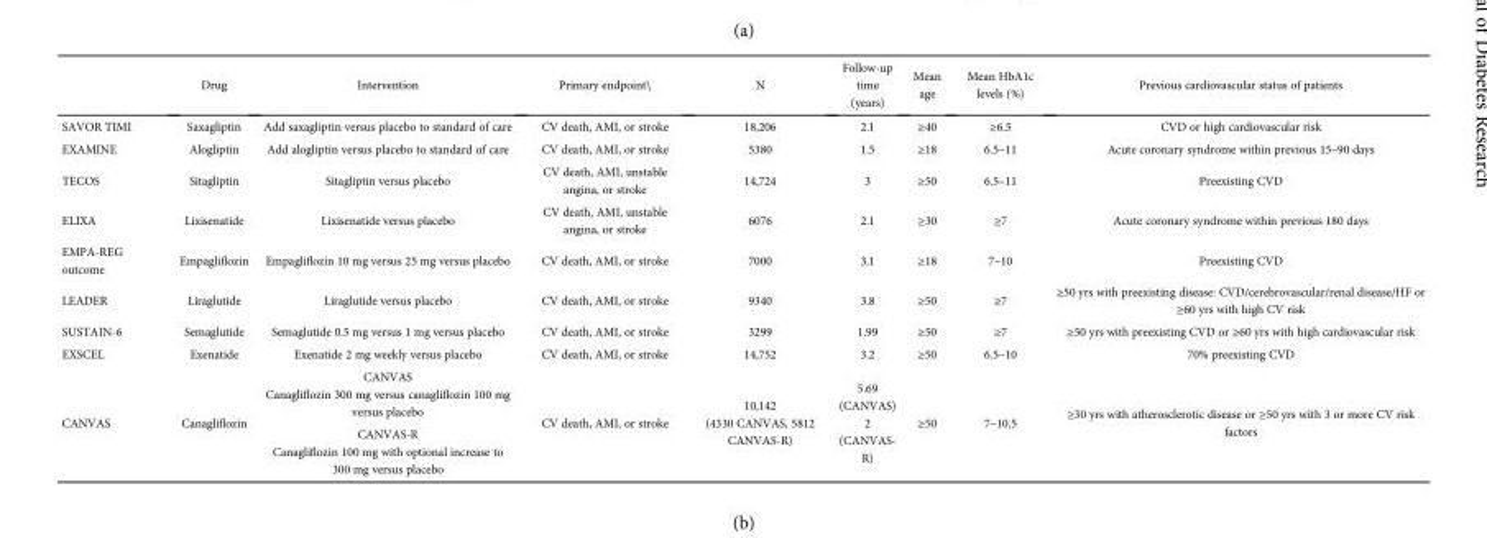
<table><thead><tr><td></td><td>Drug</td><td>Intervention</td><td>Primary endpoint\</td><td>N</td><td>Follow-up time (years)</td><td>Mean age</td><td>Mean HbA1c levels (%)</td><td>Previous cardiovascular status of patients</td></tr></thead><tbody><tr><td>SAVOR TIMI</td><td>Saxagliptin</td><td>Add saxagliptin versus placebo to standard of care</td><td>CV death, AMI, or stroke</td><td>18,206</td><td>2.1</td><td>≥40</td><td>≥6.5</td><td>CVD or high cardiovascular risk</td></tr><tr><td>EXAMINE</td><td>Alogliptin</td><td>Add alogliptin versus placebo to standard of care</td><td>CV death, AMI, or stroke</td><td>5380</td><td>1.5</td><td>≥18</td><td>6.5–11</td><td>Acute coronary syndrome within previous 15–90 days</td></tr><tr><td>TECOS</td><td>Sitagliptin</td><td>Sitagliptin versus placebo</td><td>CV death, AMI, unstable angina, or stroke</td><td>14,724</td><td>3</td><td>≥50</td><td>6.5–11</td><td>Preexisting CVD</td></tr><tr><td>ELIXA</td><td>Lixisenatide</td><td>Lixisenatide versus placebo</td><td>CV death, AMI, unstable angina, or stroke</td><td>6076</td><td>2.1</td><td>≥30</td><td>≥7</td><td>Acute coronary syndrome within previous 180 days</td></tr><tr><td>EMPA-REG outcome</td><td>Empagliflozin</td><td>Empagliflozin 10 mg versus 25 mg versus placebo</td><td>CV death, AMI, or stroke</td><td>7000</td><td>3.1</td><td>≥18</td><td>7–10</td><td>Preexisting CVD</td></tr><tr><td>LEADER</td><td>Liraglutide</td><td>Liraglutide versus placebo</td><td>CV death, AMI, or stroke</td><td>9340</td><td>3.8</td><td>≥50</td><td>≥7</td><td>≥50 yrs with preexisting disease: CVD/cerebrovascular/renal disease/HF or ≥60 yrs with high CV risk</td></tr><tr><td>SUSTAIN-6</td><td>Semaglutide</td><td>Semaglutide 0.5 mg versus 1 mg versus placebo</td><td>CV death, AMI, or stroke</td><td>3299</td><td>1.99</td><td>≥50</td><td>≥7</td><td>≥50 yrs with preexisting CVD or ≥60 yrs with high cardiovascular risk</td></tr><tr><td>EXSCEL</td><td>Exenatide</td><td>Exenatide 2 mg weekly versus placebo</td><td>CV death, AMI, or stroke</td><td>14,752</td><td>3.2</td><td>≥50</td><td>6.5–10</td><td>70% preexisting CVD</td></tr><tr><td rowspan="2">CANVAS</td><td rowspan="2">Canagliflozin</td><td>CANVAS Canagliflozin 300 mg versus canagliflozin 100 mg versus placebo</td><td rowspan="2">CV death, AMI, or stroke</td><td rowspan="2">10,142 (4330 CANVAS, 5812 CANVAS-R)</td><td rowspan="2">5.69 (CANVAS) 2 (CANVAS- R)</td><td rowspan="2">≥50</td><td rowspan="2">7–10.5</td><td rowspan="2">≥30 yrs with atherosclerotic disease or ≥50 yrs with 3 or more CV risk factors</td></tr><tr><td>CANVAS-R Canagliflozin 100 mg with optional increase to 300 mg versus placebo</td></tr></tbody></table>